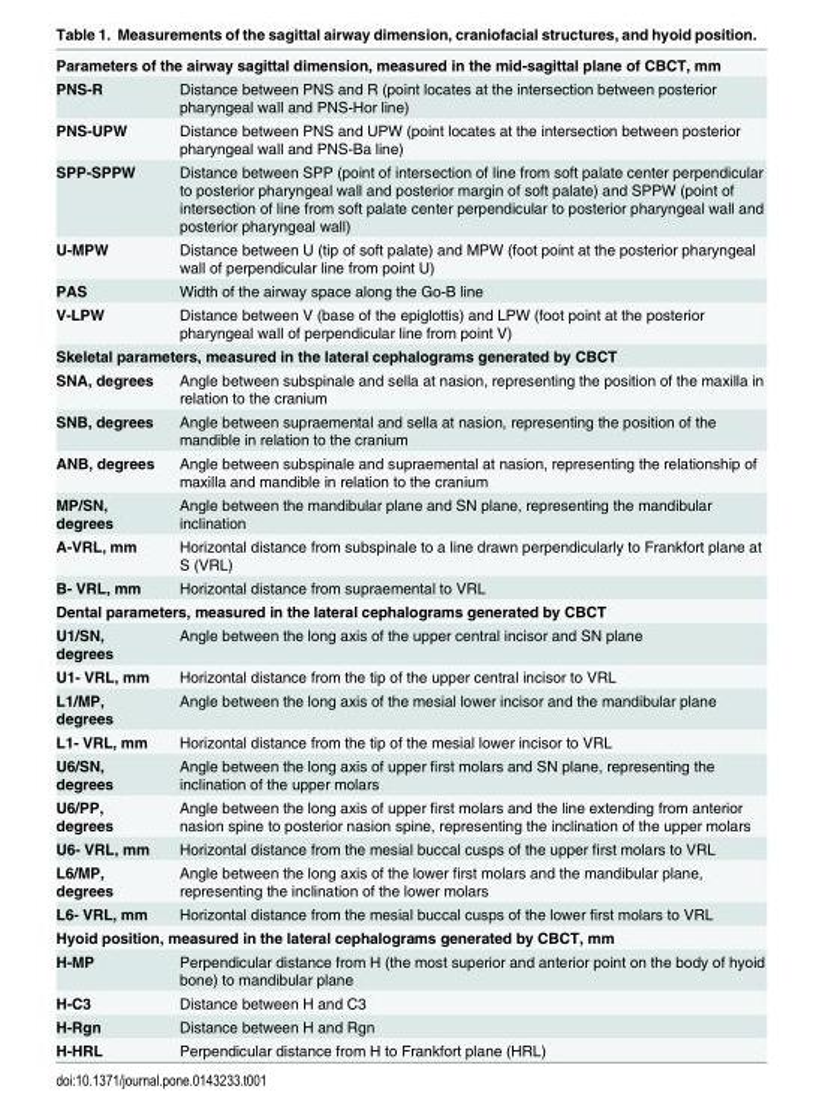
<table><tbody><tr><td colspan="2">Parameters of the airway sagittal dimension, measured in the mid-sagittal plane of CBCT, mm</td></tr><tr><td>PNS-R</td><td>Distance between PNS and R (point locates at the intersection between posterior pharyngeal wall and PNS-Hor line)</td></tr><tr><td>PNS-UPW</td><td>Distance between PNS and UPW (point locates at the intersection between posterior pharyngeal wall and PNS-Ba line)</td></tr><tr><td>SPP-SPPW</td><td>Distance between SPP (point of intersection of line from soft palate center perpendicular to posterior pharyngeal wall and posterior margin of soft palate) and SPPW (point of intersection of line from soft palate center perpendicular to posterior pharyngeal wall and posterior pharyngeal wall)</td></tr><tr><td>U-MPW</td><td>Distance between U (tip of soft palate) and MPW (foot point at the posterior pharyngeal wall of perpendicular line from point U)</td></tr><tr><td>PAS</td><td>Width of the airway space along the Go-B line</td></tr><tr><td>V-LPW</td><td>Distance between V (base of the epiglottis) and LPW (foot point at the posterior pharyngeal wall of perpendicular line from point V)</td></tr><tr><td colspan="2">Skeletal parameters, measured in the lateral cephalograms generated by CBCT</td></tr><tr><td>SNA, degrees</td><td>Angle between subspinale and sella at nasion, representing the position of the maxilla in relation to the cranium</td></tr><tr><td>SNB, degrees</td><td>Angle between supraemental and sella at nasion, representing the position of the mandible in relation to the cranium</td></tr><tr><td>ANB, degrees</td><td>Angle between subspinale and supraemental at nasion, representing the relationship of maxilla and mandible in relation to the cranium</td></tr><tr><td>MP/SN, degrees</td><td>Angle between the mandibular plane and SN plane, representing the mandibular inclination</td></tr><tr><td>A-VRL, mm</td><td>Horizontal distance from subspinale to a line drawn perpendicularly to Frankfort plane at S (VRL)</td></tr><tr><td>B- VRL, mm</td><td>Horizontal distance from supraemental to VRL</td></tr><tr><td colspan="2">Dental parameters, measured in the lateral cephalograms generated by CBCT</td></tr><tr><td>U1/SN, degrees</td><td>Angle between the long axis of the upper central incisor and SN plane</td></tr><tr><td>U1- VRL, mm</td><td>Horizontal distance from the tip of the upper central incisor to VRL</td></tr><tr><td>L1/MP, degrees</td><td>Angle between the long axis of the mesial lower incisor and the mandibular plane</td></tr><tr><td>L1- VRL, mm</td><td>Horizontal distance from the tip of the mesial lower incisor to VRL</td></tr><tr><td>U6/SN, degrees</td><td>Angle between the long axis of upper first molars and SN plane, representing the inclination of the upper molars</td></tr><tr><td>U6/PP, degrees</td><td>Angle between the long axis of upper first molars and the line extending from anterior nasion spine to posterior nasion spine, representing the inclination of the upper molars</td></tr><tr><td>U6- VRL, mm</td><td>Horizontal distance from the mesial buccal cusps of the upper first molars to VRL</td></tr><tr><td>L6/MP, degrees</td><td>Angle between the long axis of the lower first molars and the mandibular plane, representing the inclination of the lower molars</td></tr><tr><td>L6- VRL, mm</td><td>Horizontal distance from the mesial buccal cusps of the lower first molars to VRL</td></tr><tr><td colspan="2">Hyoid position, measured in the lateral cephalograms generated by CBCT, mm</td></tr><tr><td>H-MP</td><td>Perpendicular distance from H (the most superior and anterior point on the body of hyoid bone) to mandibular plane</td></tr><tr><td>H-C3</td><td>Distance between H and C3</td></tr><tr><td>H-Rgn</td><td>Distance between H and Rgn</td></tr><tr><td>H-HRL</td><td>Perpendicular distance from H to Frankfort plane (HRL)</td></tr></tbody></table>